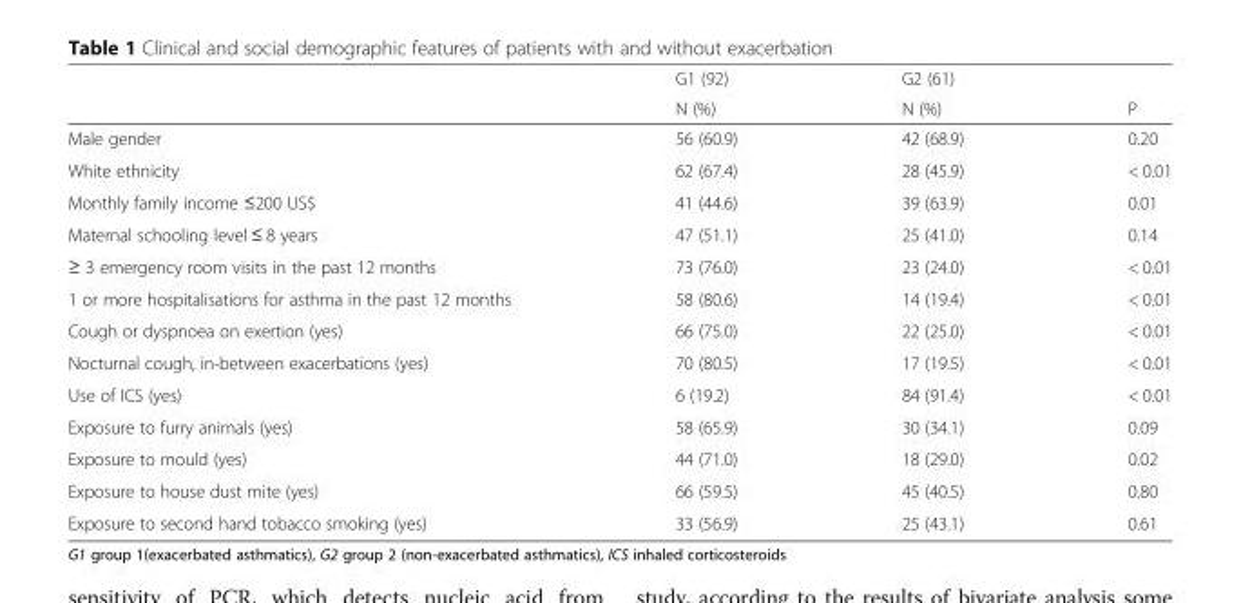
<table><thead><tr><td rowspan="2"></td><td rowspan="2">G1 (92) N (%)</td><td rowspan="2">G2 (61) N (%)</td><td rowspan="2">P</td></tr><tr></tr></thead><tbody><tr><td>Male gender</td><td>56 (60.9)</td><td>42 (68.9)</td><td>0.20</td></tr><tr><td>White ethnicity</td><td>62 (67.4)</td><td>28 (45.9)</td><td>&lt; 0.01</td></tr><tr><td>Monthly family income ≤200 US$</td><td>41 (44.6)</td><td>39 (63.9)</td><td>0.01</td></tr><tr><td>Maternal schooling level ≤ 8 years</td><td>47 (51.1)</td><td>25 (41.0)</td><td>0.14</td></tr><tr><td>≥ 3 emergency room visits in the past 12 months</td><td>73 (76.0)</td><td>23 (24.0)</td><td>&lt; 0.01</td></tr><tr><td>1 or more hospitalisations for asthma in the past 12 months</td><td>58 (80.6)</td><td>14 (19.4)</td><td>&lt; 0.01</td></tr><tr><td>Cough or dyspnoea on exertion (yes)</td><td>66 (75.0)</td><td>22 (25.0)</td><td>&lt; 0.01</td></tr><tr><td>Nocturnal cough, in-between exacerbations (yes)</td><td>70 (80.5)</td><td>17 (19.5)</td><td>&lt; 0.01</td></tr><tr><td>Use of ICS (yes)</td><td>6 (19.2)</td><td>84 (91.4)</td><td>&lt; 0.01</td></tr><tr><td>Exposure to furry animals (yes)</td><td>58 (65.9)</td><td>30 (34.1)</td><td>0.09</td></tr><tr><td>Exposure to mould (yes)</td><td>44 (71.0)</td><td>18 (29.0)</td><td>0.02</td></tr><tr><td>Exposure to house dust mite (yes)</td><td>66 (59.5)</td><td>45 (40.5)</td><td>0.80</td></tr><tr><td>Exposure to second hand tobacco smoking (yes)</td><td>33 (56.9)</td><td>25 (43.1)</td><td>0.61</td></tr></tbody></table>